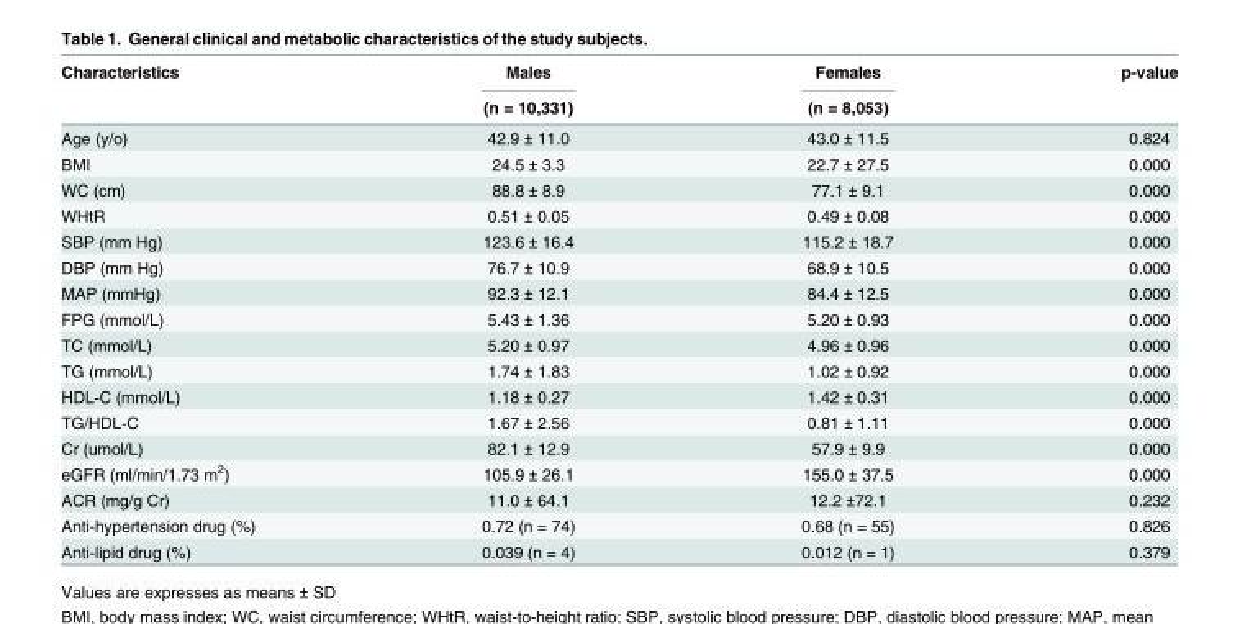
<table><thead><tr><td rowspan="2">Characteristics</td><td rowspan="2">Males (n = 10,331)</td><td rowspan="2">Females (n = 8,053)</td><td rowspan="2">p-value</td></tr><tr></tr></thead><tbody><tr><td>Age (y/o)</td><td>42.9 ± 11.0</td><td>43.0 ± 11.5</td><td>0.824</td></tr><tr><td>BMI</td><td>24.5 ± 3.3</td><td>22.7 ± 27.5</td><td>0.000</td></tr><tr><td>WC (cm)</td><td>88.8 ± 8.9</td><td>77.1 ± 9.1</td><td>0.000</td></tr><tr><td>WHtR</td><td>0.51 ± 0.05</td><td>0.49 ± 0.08</td><td>0.000</td></tr><tr><td>SBP (mm Hg)</td><td>123.6 ± 16.4</td><td>115.2 ± 18.7</td><td>0.000</td></tr><tr><td>DBP (mm Hg)</td><td>76.7 ± 10.9</td><td>68.9 ± 10.5</td><td>0.000</td></tr><tr><td>MAP (mmHg)</td><td>92.3 ± 12.1</td><td>84.4 ± 12.5</td><td>0.000</td></tr><tr><td>FPG (mmol/L)</td><td>5.43 ± 1.36</td><td>5.20 ± 0.93</td><td>0.000</td></tr><tr><td>TC (mmol/L)</td><td>5.20 ± 0.97</td><td>4.96 ± 0.96</td><td>0.000</td></tr><tr><td>TG (mmol/L)</td><td>1.74 ± 1.83</td><td>1.02 ± 0.92</td><td>0.000</td></tr><tr><td>HDL-C (mmol/L)</td><td>1.18 ± 0.27</td><td>1.42 ± 0.31</td><td>0.000</td></tr><tr><td>TG/HDL-C</td><td>1.67 ± 2.56</td><td>0.81 ± 1.11</td><td>0.000</td></tr><tr><td>Cr (umol/L)</td><td>82.1 ± 12.9</td><td>57.9 ± 9.9</td><td>0.000</td></tr><tr><td>eGFR (ml/min/1.73 m<sup>2</sup>)</td><td>105.9 ± 26.1</td><td>155.0 ± 37.5</td><td>0.000</td></tr><tr><td>ACR (mg/g Cr)</td><td>11.0 ± 64.1</td><td>12.2 ±72.1</td><td>0.232</td></tr><tr><td>Anti-hypertension drug (%)</td><td>0.72 (n = 74)</td><td>0.68 (n = 55)</td><td>0.826</td></tr><tr><td>Anti-lipid drug (%)</td><td>0.039 (n = 4)</td><td>0.012 (n = 1)</td><td>0.379</td></tr></tbody></table>